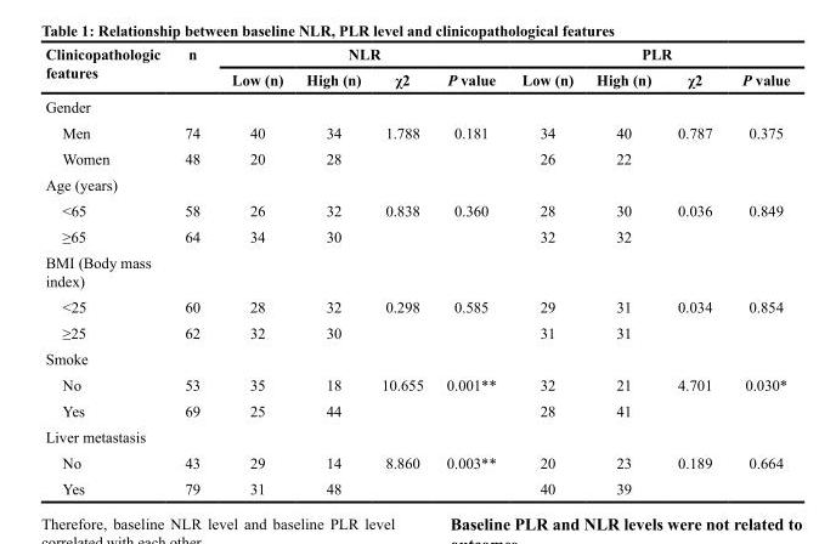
<table><thead><tr><td rowspan="2">Clinicopathologic features</td><td rowspan="2">n</td><td colspan="4">NLR</td><td colspan="4">PLR</td></tr><tr><td>Low (n)</td><td>High (n)</td><td>χ2</td><td>P value</td><td>Low (n)</td><td>High (n)</td><td>χ2</td><td>P value</td></tr></thead><tbody><tr><td colspan="10">Gender</td></tr><tr><td>Men</td><td>74</td><td>40</td><td>34</td><td rowspan="2">1.788</td><td rowspan="2">0.181</td><td>34</td><td>40</td><td rowspan="2">0.787</td><td rowspan="2">0.375</td></tr><tr><td>Women</td><td>48</td><td>20</td><td>28</td><td>26</td><td>22</td></tr><tr><td colspan="10">Age (years)</td></tr><tr><td>&lt;65</td><td>58</td><td>26</td><td>32</td><td rowspan="2">0.838</td><td rowspan="2">0.360</td><td>28</td><td>30</td><td rowspan="2">0.036</td><td rowspan="2">0.849</td></tr><tr><td>≥65</td><td>64</td><td>34</td><td>30</td><td>32</td><td>32</td></tr><tr><td colspan="10">BMI (Body mass index)</td></tr><tr><td>&lt;25</td><td>60</td><td>28</td><td>32</td><td rowspan="2">0.298</td><td rowspan="2">0.585</td><td>29</td><td>31</td><td rowspan="2">0.034</td><td rowspan="2">0.854</td></tr><tr><td>≥25</td><td>62</td><td>32</td><td>30</td><td>31</td><td>31</td></tr><tr><td colspan="10">Smoke</td></tr><tr><td>No</td><td>53</td><td>35</td><td>18</td><td rowspan="2">10.655</td><td rowspan="2">0.001**</td><td>32</td><td>21</td><td rowspan="2">4.701</td><td rowspan="2">0.030*</td></tr><tr><td>Yes</td><td>69</td><td>25</td><td>44</td><td>28</td><td>41</td></tr><tr><td colspan="10">Liver metastasis</td></tr><tr><td>No</td><td>43</td><td>29</td><td>14</td><td rowspan="2">8.860</td><td rowspan="2">0.003**</td><td>20</td><td>23</td><td rowspan="2">0.189</td><td rowspan="2">0.664</td></tr><tr><td>Yes</td><td>79</td><td>31</td><td>48</td><td>40</td><td>39</td></tr></tbody></table>